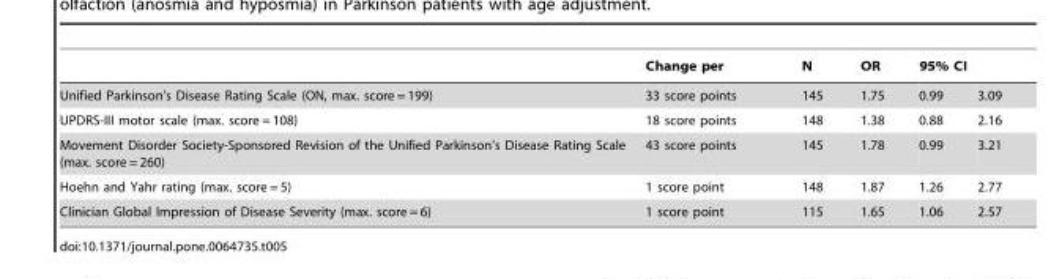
<table><thead><tr><td rowspan="2">Unified Parkinson’s Disease Rating Scale (ON, max. score = 199)</td><td rowspan="2">Change per 33 score points</td><td rowspan="2">N 145</td><td rowspan="2">OR 1.75</td><td colspan="2">95% CI</td></tr><tr><td>0.99</td><td>3.09</td></tr></thead><tbody><tr><td>UPDRS-III motor scale (max. score = 108)</td><td>18 score points</td><td>148</td><td>1.38</td><td>0.88</td><td>2.16</td></tr><tr><td>Movement Disorder Society-Sponsored Revision of the Unified Parkinson’s Disease Rating Scale (max. score = 260)</td><td>43 score points</td><td>145</td><td>1.78</td><td>0.99</td><td>3.21</td></tr><tr><td>Hoehn and Yahr rating (max. score = 5)</td><td>1 score point</td><td>148</td><td>1.87</td><td>1.26</td><td>2.77</td></tr><tr><td>Clinician Global Impression of Disease Severity (max. score = 6)</td><td>1 score point</td><td>115</td><td>1.65</td><td>1.06</td><td>2.57</td></tr></tbody></table>